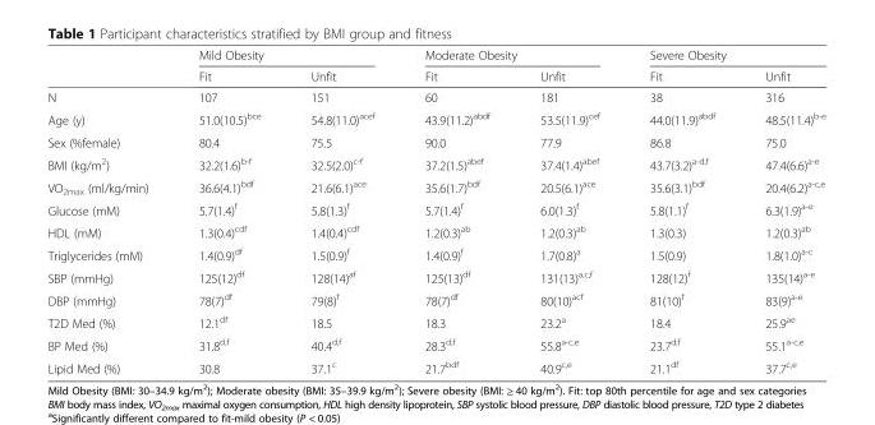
<table><thead><tr><td rowspan="2"></td><td colspan="2">Mild Obesity</td><td colspan="2">Moderate Obesity</td><td colspan="2">Severe Obesity</td></tr><tr><td>Fit</td><td>Unfit</td><td>Fit</td><td>Unfit</td><td>Fit</td><td>Unfit</td></tr></thead><tbody><tr><td>N</td><td>107</td><td>151</td><td>60</td><td>181</td><td>38</td><td>316</td></tr><tr><td>Age (y)</td><td>51.0(10.5)<sup>bce</sup></td><td>54.8(11.0)<sup>acef</sup></td><td>43.9(11.2)<sup>abdf</sup></td><td>53.5(11.9)<sup>cef</sup></td><td>44.0(11.9)<sup>abdf</sup></td><td>48.5(11.4)<sup>b-e</sup></td></tr><tr><td>Sex (%female)</td><td>80.4</td><td>75.5</td><td>90.0</td><td>77.9</td><td>86.8</td><td>75.0</td></tr><tr><td>BMI (kg/m<sup>2</sup>)</td><td>32.2(1.6)<sup>b-f</sup></td><td>32.5(2.0)<sup>c-f</sup></td><td>37.2(1.5)<sup>abef</sup></td><td>37.4(1.4)<sup>abef</sup></td><td>43.7(3.2)<sup>a-d,f</sup></td><td>47.4(6.6)<sup>a-e</sup></td></tr><tr><td>VO<sub>2max</sub> (ml/kg/min)</td><td>36.6(4.1)<sup>bdf</sup></td><td>21.6(6.1)<sup>ace</sup></td><td>35.6(1.7)<sup>bdf</sup></td><td>20.5(6.1)<sup>ace</sup></td><td>35.6(3.1)<sup>bdf</sup></td><td>20.4(6.2)<sup>a-c,e</sup></td></tr><tr><td>Glucose (mM)</td><td>5.7(1.4)<sup>f</sup></td><td>5.8(1.3)<sup>f</sup></td><td>5.7(1.4)<sup>f</sup></td><td>6.0(1.3)<sup>f</sup></td><td>5.8(1.1)<sup>f</sup></td><td>6.3(1.9)<sup>a-e</sup></td></tr><tr><td>HDL (mM)</td><td>1.3(0.4)<sup>cdf</sup></td><td>1.4(0.4)<sup>cdf</sup></td><td>1.2(0.3)<sup>ab</sup></td><td>1.2(0.3)<sup>ab</sup></td><td>1.3(0.3)</td><td>1.2(0.3)<sup>ab</sup></td></tr><tr><td>Triglycerides (mM)</td><td>1.4(0.9)<sup>df</sup></td><td>1.5(0.9)<sup>f</sup></td><td>1.4(0.9)<sup>f</sup></td><td>1.7(0.8)<sup>a</sup></td><td>1.5(0.9)</td><td>1.8(1.0)<sup>a-c</sup></td></tr><tr><td>SBP (mmHg)</td><td>125(12)<sup>df</sup></td><td>128(14)<sup>af</sup></td><td>125(13)<sup>df</sup></td><td>131(13)<sup>a,c,f</sup></td><td>128(12)<sup>f</sup></td><td>135(14)<sup>a-e</sup></td></tr><tr><td>DBP (mmHg)</td><td>78(7)<sup>df</sup></td><td>79(8)<sup>f</sup></td><td>78(7)<sup>df</sup></td><td>80(10)<sup>acf</sup></td><td>81(10)<sup>f</sup></td><td>83(9)<sup>a-e</sup></td></tr><tr><td>T2D Med (%)</td><td>12.1<sup>df</sup></td><td>18.5</td><td>18.3</td><td>23.2<sup>a</sup></td><td>18.4</td><td>25.9<sup>ae</sup></td></tr><tr><td>BP Med (%)</td><td>31.8<sup>d,f</sup></td><td>40.4<sup>d,f</sup></td><td>28.3<sup>d,f</sup></td><td>55.8<sup>a-c,e</sup></td><td>23.7<sup>d,f</sup></td><td>55.1<sup>a-c,e</sup></td></tr><tr><td>Lipid Med (%)</td><td>30.8</td><td>37.1<sup>c</sup></td><td>21.7<sup>bdf</sup></td><td>40.9<sup>c,e</sup></td><td>21.1<sup>df</sup></td><td>37.7<sup>c,e</sup></td></tr></tbody></table>